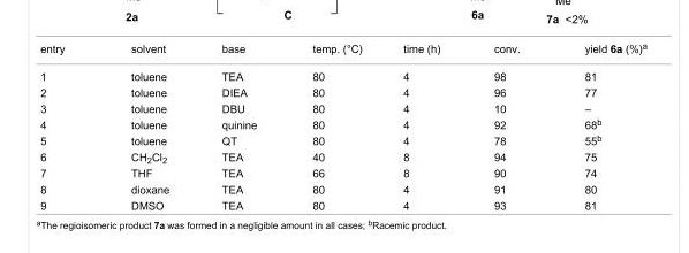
<table><tbody><tr><td>entry</td><td>solvent</td><td>base</td><td>temp. (°C)</td><td>time (h)</td><td>conv.</td><td>yield 6a (%)<sup>a</sup></td></tr><tr><td>1</td><td>toluene</td><td>TEA</td><td>80</td><td>4</td><td>98</td><td>81</td></tr><tr><td>2</td><td>toluene</td><td>DIEA</td><td>80</td><td>4</td><td>96</td><td>77</td></tr><tr><td>3</td><td>toluene</td><td>DBU</td><td>80</td><td>4</td><td>10</td><td>–</td></tr><tr><td>4</td><td>toluene</td><td>quinine</td><td>80</td><td>4</td><td>92</td><td>68<sup>b</sup></td></tr><tr><td>5</td><td>toluene</td><td>QT</td><td>80</td><td>4</td><td>78</td><td>55<sup>b</sup></td></tr><tr><td>6</td><td>CH<sub>2</sub>Cl<sub>2</sub></td><td>TEA</td><td>40</td><td>8</td><td>94</td><td>75</td></tr><tr><td>7</td><td>THF</td><td>TEA</td><td>66</td><td>8</td><td>90</td><td>74</td></tr><tr><td>8</td><td>dioxane</td><td>TEA</td><td>80</td><td>4</td><td>91</td><td>80</td></tr><tr><td>9</td><td>DMSO</td><td>TEA</td><td>80</td><td>4</td><td>93</td><td>81</td></tr></tbody></table>